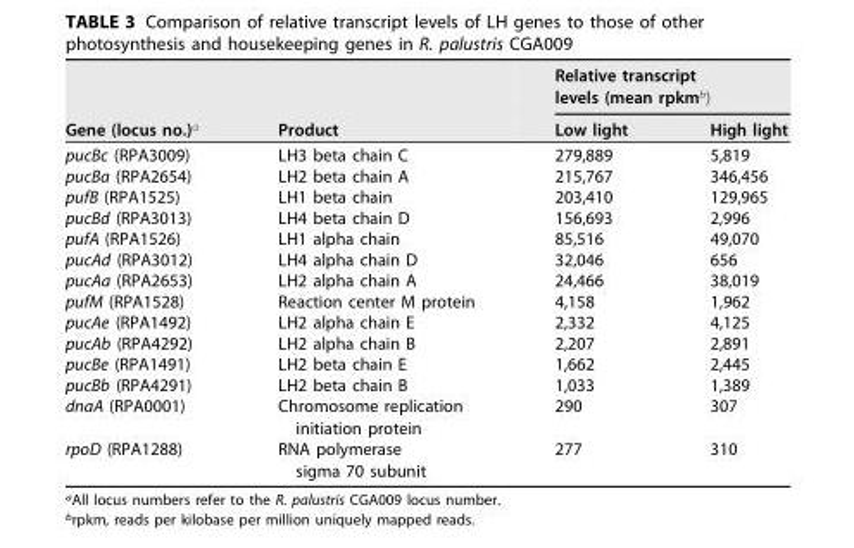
<table><thead><tr><td rowspan="2">Gene (locus no.)<sup>a</sup></td><td rowspan="2">Product</td><td colspan="2">Relative transcript levels (mean rpkm<sup>b</sup>)</td></tr><tr><td>Low light</td><td>High light</td></tr></thead><tbody><tr><td>pucBc (RPA3009)</td><td>LH3 beta chain C</td><td>279,889</td><td>5,819</td></tr><tr><td>pucBa (RPA2654)</td><td>LH2 beta chain A</td><td>215,767</td><td>346,456</td></tr><tr><td>pufB (RPA1525)</td><td>LH1 beta chain</td><td>203,410</td><td>129,965</td></tr><tr><td>pucBd (RPA3013)</td><td>LH4 beta chain D</td><td>156,693</td><td>2,996</td></tr><tr><td>pufA (RPA1526)</td><td>LH1 alpha chain</td><td>85,516</td><td>49,070</td></tr><tr><td>pucAd (RPA3012)</td><td>LH4 alpha chain D</td><td>32,046</td><td>656</td></tr><tr><td>pucAa (RPA2653)</td><td>LH2 alpha chain A</td><td>24,466</td><td>38,019</td></tr><tr><td>pufM (RPA1528)</td><td>Reaction center M protein</td><td>4,158</td><td>1,962</td></tr><tr><td>pucAe (RPA1492)</td><td>LH2 alpha chain E</td><td>2,332</td><td>4,125</td></tr><tr><td>pucAb (RPA4292)</td><td>LH2 alpha chain B</td><td>2,207</td><td>2,891</td></tr><tr><td>pucBe (RPA1491)</td><td>LH2 beta chain E</td><td>1,662</td><td>2,445</td></tr><tr><td>pucBb (RPA4291)</td><td>LH2 beta chain B</td><td>1,033</td><td>1,389</td></tr><tr><td>dnaA (RPA0001)</td><td>Chromosome replication initiation protein</td><td>290</td><td>307</td></tr><tr><td>rpoD (RPA1288)</td><td>RNA polymerase sigma 70 subunit</td><td>277</td><td>310</td></tr></tbody></table>